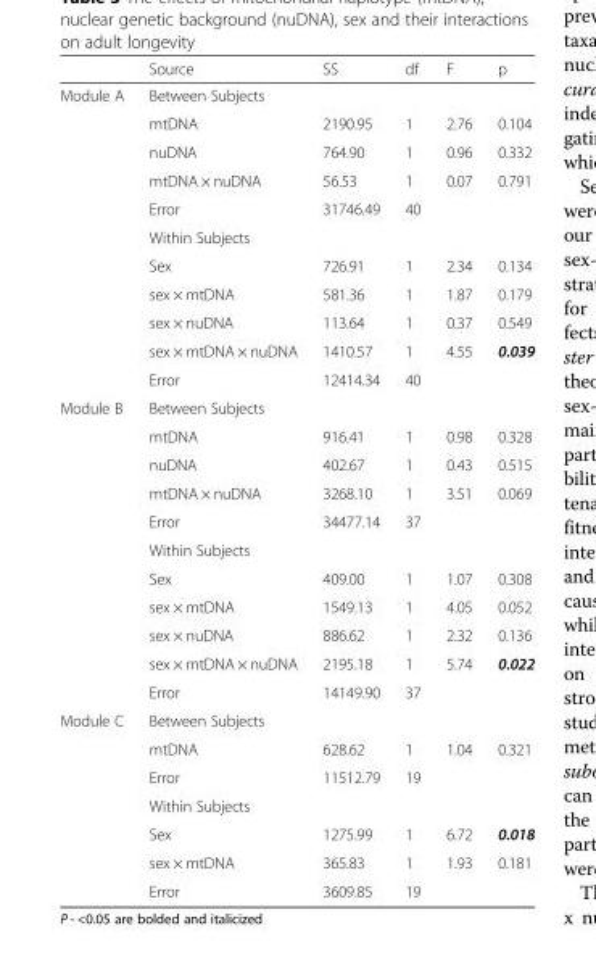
<table><thead><tr><td></td><td>Source</td><td>SS</td><td>df</td><td>F</td><td>p</td></tr></thead><tbody><tr><td rowspan="11">Module A</td><td colspan="5">Between Subjects</td></tr><tr><td>mtDNA</td><td>2190.95</td><td>1</td><td>2.76</td><td>0.104</td></tr><tr><td>nuDNA</td><td>764.90</td><td>1</td><td>0.96</td><td>0.332</td></tr><tr><td>mtDNA × nuDNA</td><td>56.53</td><td>1</td><td>0.07</td><td>0.791</td></tr><tr><td>Error</td><td>31746.49</td><td>40</td><td></td><td></td></tr><tr><td colspan="5">Within Subjects</td></tr><tr><td>Sex</td><td>726.91</td><td>1</td><td>2.34</td><td>0.134</td></tr><tr><td>sex × mtDNA</td><td>581.36</td><td>1</td><td>1.87</td><td>0.179</td></tr><tr><td>sex × nuDNA</td><td>113.64</td><td>1</td><td>0.37</td><td>0.549</td></tr><tr><td>sex × mtDNA × nuDNA</td><td>1410.57</td><td>1</td><td>4.55</td><td>0.039</td></tr><tr><td>Error</td><td>12414.34</td><td>40</td><td></td><td></td></tr><tr><td rowspan="11">Module B</td><td colspan="5">Between Subjects</td></tr><tr><td>mtDNA</td><td>916.41</td><td>1</td><td>0.98</td><td>0.328</td></tr><tr><td>nuDNA</td><td>402.67</td><td>1</td><td>0.43</td><td>0.515</td></tr><tr><td>mtDNA × nuDNA</td><td>3268.10</td><td>1</td><td>3.51</td><td>0.069</td></tr><tr><td>Error</td><td>34477.14</td><td>37</td><td></td><td></td></tr><tr><td colspan="5">Within Subjects</td></tr><tr><td>Sex</td><td>409.00</td><td>1</td><td>1.07</td><td>0.308</td></tr><tr><td>sex × mtDNA</td><td>1549.13</td><td>1</td><td>4.05</td><td>0.052</td></tr><tr><td>sex × nuDNA</td><td>886.62</td><td>1</td><td>2.32</td><td>0.136</td></tr><tr><td>sex × mtDNA × nuDNA</td><td>2195.18</td><td>1</td><td>5.74</td><td>0.022</td></tr><tr><td>Error</td><td>14149.90</td><td>37</td><td></td><td></td></tr><tr><td rowspan="7">Module C</td><td colspan="5">Between Subjects</td></tr><tr><td>mtDNA</td><td>628.62</td><td>1</td><td>1.04</td><td>0.321</td></tr><tr><td>Error</td><td>11512.79</td><td>19</td><td></td><td></td></tr><tr><td colspan="5">Within Subjects</td></tr><tr><td>Sex</td><td>1275.99</td><td>1</td><td>6.72</td><td>0.018</td></tr><tr><td>sex × mtDNA</td><td>365.83</td><td>1</td><td>1.93</td><td>0.181</td></tr><tr><td>Error</td><td>3609.85</td><td>19</td><td></td><td></td></tr></tbody></table>